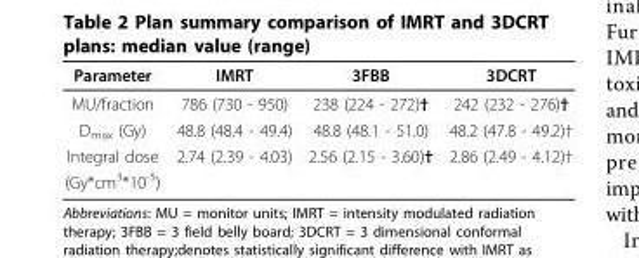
<table><thead><tr><td>Parameter</td><td>IMRT</td><td>3FBB</td><td>3DCRT</td></tr></thead><tbody><tr><td>MU/fraction</td><td>786 (730 - 950)</td><td>238 (224 - 272)†</td><td>242 (232 - 276)†</td></tr><tr><td>D<sub>max</sub> (Gy)</td><td>48.8 (48.4 - 49.4)</td><td>48.8 (48.1 - 51.0)</td><td>48.2 (47.8 - 49.2)†</td></tr><tr><td>Integral dose</td><td>2.74 (2.39 - 4.03)</td><td>2.56 (2.15 - 3.60)†</td><td>2.86 (2.49 - 4.12)†</td></tr><tr><td>(Gy*cm<sup>3</sup>*10<sup>-5</sup>)</td><td></td><td></td><td></td></tr></tbody></table>